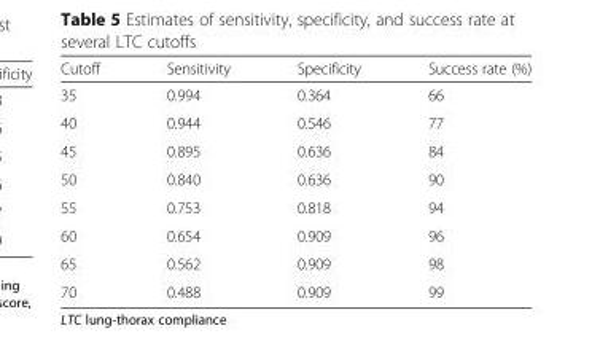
<table><thead><tr><td>Cutoff</td><td>Sensitivity</td><td>Specificity</td><td>Success rate (%)</td></tr></thead><tbody><tr><td>35</td><td>0.994</td><td>0.364</td><td>66</td></tr><tr><td>40</td><td>0.944</td><td>0.546</td><td>77</td></tr><tr><td>45</td><td>0.895</td><td>0.636</td><td>84</td></tr><tr><td>50</td><td>0.840</td><td>0.636</td><td>90</td></tr><tr><td>55</td><td>0.753</td><td>0.818</td><td>94</td></tr><tr><td>60</td><td>0.654</td><td>0.909</td><td>96</td></tr><tr><td>65</td><td>0.562</td><td>0.909</td><td>98</td></tr><tr><td>70</td><td>0.488</td><td>0.909</td><td>99</td></tr></tbody></table>